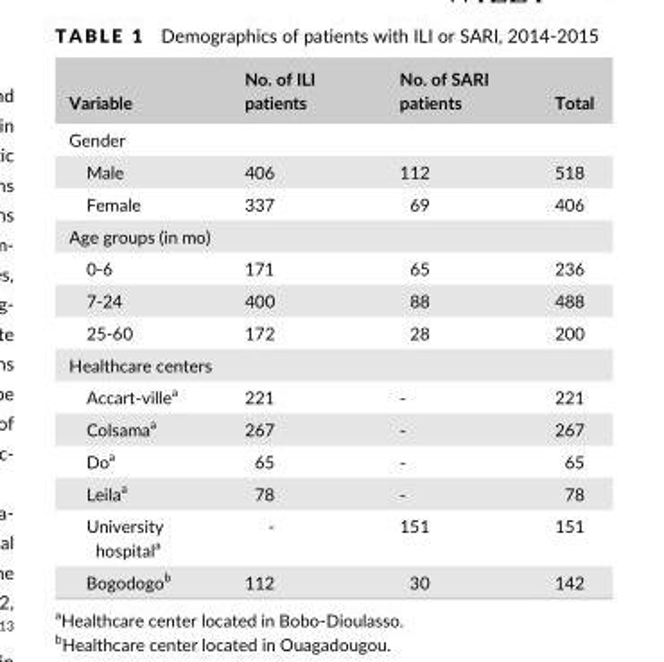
<table><thead><tr><td>Variable</td><td>No. of ILI patients</td><td>No. of SARI patients</td><td>Total</td></tr></thead><tbody><tr><td colspan="4">Gender</td></tr><tr><td>Male</td><td>406</td><td>112</td><td>518</td></tr><tr><td>Female</td><td>337</td><td>69</td><td>406</td></tr><tr><td colspan="4">Age groups (in mo)</td></tr><tr><td>0- 6</td><td>171</td><td>65</td><td>236</td></tr><tr><td>7- 24</td><td>400</td><td>88</td><td>488</td></tr><tr><td>25- 60</td><td>172</td><td>28</td><td>200</td></tr><tr><td colspan="4">Healthcare centers</td></tr><tr><td>Accart- ville<sup>a</sup></td><td>221</td><td>-</td><td>221</td></tr><tr><td>Colsama<sup>a</sup></td><td>267</td><td>-</td><td>267</td></tr><tr><td>Do<sup>a</sup></td><td>65</td><td>-</td><td>65</td></tr><tr><td>Leila<sup>a</sup></td><td>78</td><td>-</td><td>78</td></tr><tr><td>University hospital<sup>a</sup></td><td>-</td><td>151</td><td>151</td></tr><tr><td>Bogodogo<sup>b</sup></td><td>112</td><td>30</td><td>142</td></tr></tbody></table>